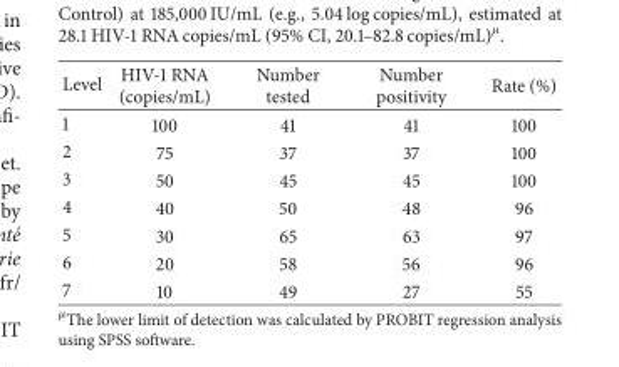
<table><thead><tr><td>Level</td><td>HIV-1 RNA (copies/mL)</td><td>Number tested</td><td>Number positivity</td><td>Rate (%)</td></tr></thead><tbody><tr><td>1</td><td>100</td><td>41</td><td>41</td><td>100</td></tr><tr><td>2</td><td>75</td><td>37</td><td>37</td><td>100</td></tr><tr><td>3</td><td>50</td><td>45</td><td>45</td><td>100</td></tr><tr><td>4</td><td>40</td><td>50</td><td>48</td><td>96</td></tr><tr><td>5</td><td>30</td><td>65</td><td>63</td><td>97</td></tr><tr><td>6</td><td>20</td><td>58</td><td>56</td><td>96</td></tr><tr><td>7</td><td>10</td><td>49</td><td>27</td><td>55</td></tr></tbody></table>